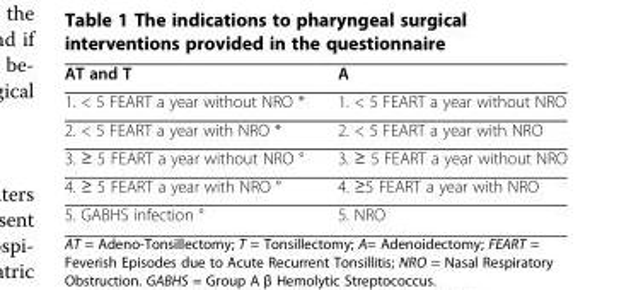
<table><thead><tr><td>AT and T</td><td>A</td></tr></thead><tbody><tr><td>1. &lt; 5 FEART a year without NRO *</td><td>1. &lt; 5 FEART a year without NRO</td></tr><tr><td>2. &lt; 5 FEART a year with NRO *</td><td>2. &lt; 5 FEART a year with NRO</td></tr><tr><td>3. ≥ 5 FEART a year without NRO °</td><td>3. ≥ 5 FEART a year without NRO</td></tr><tr><td>4. ≥ 5 FEART a year with NRO °</td><td>4. ≥5 FEART a year with NRO</td></tr><tr><td>5. GABHS infection °</td><td>5. NRO</td></tr></tbody></table>